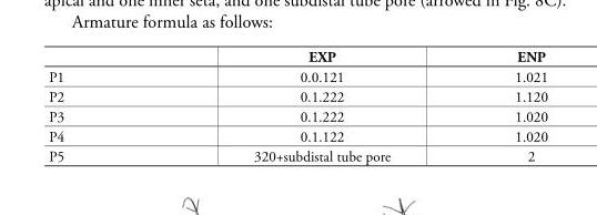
<table><thead><tr><td></td><td>EXP</td><td>ENP</td></tr></thead><tbody><tr><td>P1</td><td>0.0.121</td><td>1.021</td></tr><tr><td>P2</td><td>0.1.222</td><td>1.120</td></tr><tr><td>P3</td><td>0.1.222</td><td>1.020</td></tr><tr><td>P4</td><td>0.1.122</td><td>1.020</td></tr><tr><td>P5</td><td>320+subdistal tube pore</td><td>2</td></tr></tbody></table>